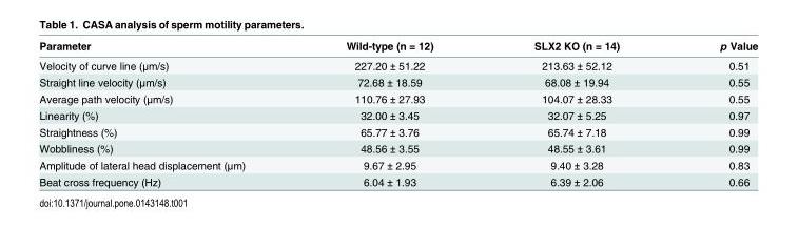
<table><thead><tr><td>Parameter</td><td>Wild-type (n = 12)</td><td>SLX2 KO (n = 14)</td><td>p Value</td></tr></thead><tbody><tr><td>Velocity of curve line (μm/s)</td><td>227.20 ± 51.22</td><td>213.63 ± 52.12</td><td>0.51</td></tr><tr><td>Straight line velocity (μm/s)</td><td>72.68 ± 18.59</td><td>68.08 ± 19.94</td><td>0.55</td></tr><tr><td>Average path velocity (μm/s)</td><td>110.76 ± 27.93</td><td>104.07 ± 28.33</td><td>0.55</td></tr><tr><td>Linearity (%)</td><td>32.00 ± 3.45</td><td>32.07 ± 5.25</td><td>0.97</td></tr><tr><td>Straightness (%)</td><td>65.77 ± 3.76</td><td>65.74 ± 7.18</td><td>0.99</td></tr><tr><td>Wobbliness (%)</td><td>48.56 ± 3.55</td><td>48.55 ± 3.61</td><td>0.99</td></tr><tr><td>Amplitude of lateral head displacement (μm)</td><td>9.67 ± 2.95</td><td>9.40 ± 3.28</td><td>0.83</td></tr><tr><td>Beat cross frequency (Hz)</td><td>6.04 ± 1.93</td><td>6.39 ± 2.06</td><td>0.66</td></tr></tbody></table>